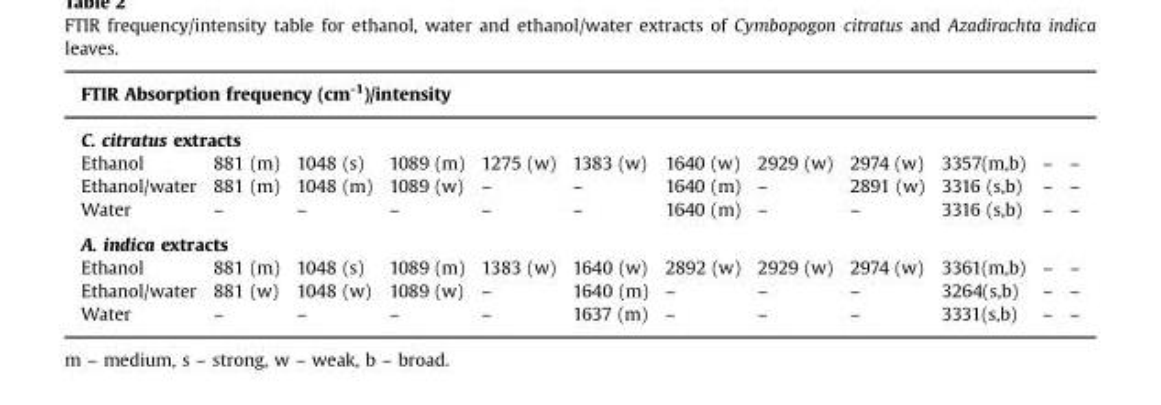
<table><thead><tr><td rowspan="2" colspan="12">FTIR Absorption frequency (cm<sup>-1</sup>)/intensity C. citratus extracts</td></tr><tr></tr><tr><td>Ethanol</td><td>881 (m)</td><td>1048 (s)</td><td>1089 (m)</td><td>1275 (w)</td><td>1383 (w)</td><td>1640 (w)</td><td>2929 (w)</td><td>2974 (w)</td><td>3357(m,b)</td><td>–</td><td>–</td></tr></thead><tbody><tr><td>Ethanol/water</td><td>881 (m)</td><td>1048 (m)</td><td>1089 (w)</td><td>–</td><td>–</td><td>1640 (m)</td><td>–</td><td>2891 (w)</td><td>3316 (s,b)</td><td>–</td><td>–</td></tr><tr><td>Water</td><td>–</td><td>–</td><td>–</td><td>–</td><td>–</td><td>1640 (m)</td><td>–</td><td>–</td><td>3316 (s,b)</td><td>–</td><td>–</td></tr><tr><td colspan="12">A. indica extracts</td></tr><tr><td>Ethanol</td><td>881 (m)</td><td>1048 (s)</td><td>1089 (m)</td><td>1383 (w)</td><td>1640 (w)</td><td>2892 (w)</td><td>2929 (w)</td><td>2974 (w)</td><td>3361(m,b)</td><td>–</td><td>–</td></tr><tr><td>Ethanol/water</td><td>881 (w)</td><td>1048 (w)</td><td>1089 (w)</td><td>–</td><td>1640 (m)</td><td>–</td><td>–</td><td>–</td><td>3264(s,b)</td><td>–</td><td>–</td></tr><tr><td>Water</td><td>–</td><td>–</td><td>–</td><td>–</td><td>1637 (m)</td><td>–</td><td>–</td><td>–</td><td>3331(s,b)</td><td>–</td><td>–</td></tr></tbody></table>